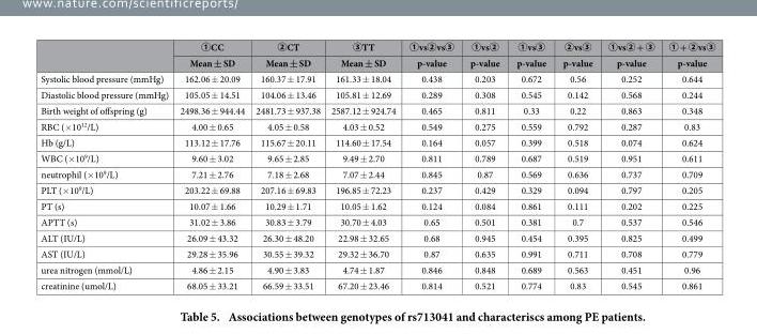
<table><thead><tr><td rowspan="2"></td><td rowspan="2">①CC Mean ± SD</td><td rowspan="2">②CT Mean ± SD</td><td rowspan="2">③TT Mean ± SD</td><td rowspan="2">①vs②vs③ p-value</td><td rowspan="2">①vs② p-value</td><td rowspan="2">①vs③ p-value</td><td rowspan="2">②vs③ p-value</td><td rowspan="2">①vs② + ③ p-value</td><td rowspan="2">① + ②vs③ p-value</td></tr><tr></tr></thead><tbody><tr><td>Systolic blood pressure (mmHg)</td><td>162.06 ± 20.09</td><td>160.37 ± 17.91</td><td>161.33 ± 18.04</td><td>0.438</td><td>0.203</td><td>0.672</td><td>0.56</td><td>0.252</td><td>0.644</td></tr><tr><td>Diastolic blood pressure (mmHg)</td><td>105.05 ± 14.51</td><td>104.06 ± 13.46</td><td>105.81 ± 12.69</td><td>0.289</td><td>0.308</td><td>0.545</td><td>0.142</td><td>0.568</td><td>0.244</td></tr><tr><td>Birth weight of offspring (g)</td><td>2498.36 ± 944.44</td><td>2481.73 ± 937.38</td><td>2587.12 ± 924.74</td><td>0.465</td><td>0.811</td><td>0.33</td><td>0.22</td><td>0.863</td><td>0.348</td></tr><tr><td>RBC (× 10<sup>12</sup>/L)</td><td>4.00 ± 0.65</td><td>4.05 ± 0.58</td><td>4.03 ± 0.52</td><td>0.549</td><td>0.275</td><td>0.559</td><td>0.792</td><td>0.287</td><td>0.83</td></tr><tr><td>Hb (g/L)</td><td>113.12 ± 17.76</td><td>115.67 ± 20.11</td><td>114.60 ± 17.54</td><td>0.164</td><td>0.057</td><td>0.399</td><td>0.518</td><td>0.074</td><td>0.624</td></tr><tr><td>WBC (× 10<sup>9</sup>/L)</td><td>9.60 ± 3.02</td><td>9.65 ± 2.85</td><td>9.49 ± 2.70</td><td>0.811</td><td>0.789</td><td>0.687</td><td>0.519</td><td>0.951</td><td>0.611</td></tr><tr><td>neutrophil (× 10<sup>9</sup>/L)</td><td>7.21 ± 2.76</td><td>7.18 ± 2.68</td><td>7.07 ± 2.44</td><td>0.845</td><td>0.87</td><td>0.569</td><td>0.636</td><td>0.737</td><td>0.709</td></tr><tr><td>PLT (× 10<sup>9</sup>/L)</td><td>203.22 ± 69.88</td><td>207.16 ± 69.83</td><td>196.85 ± 72.23</td><td>0.237</td><td>0.429</td><td>0.329</td><td>0.094</td><td>0.797</td><td>0.205</td></tr><tr><td>PT (s)</td><td>10.07 ± 1.66</td><td>10.29 ± 1.71</td><td>10.05 ± 1.62</td><td>0.124</td><td>0.084</td><td>0.861</td><td>0.111</td><td>0.202</td><td>0.225</td></tr><tr><td>APTT (s)</td><td>31.02 ± 3.86</td><td>30.83 ± 3.79</td><td>30.70 ± 4.03</td><td>0.65</td><td>0.501</td><td>0.381</td><td>0.7</td><td>0.537</td><td>0.546</td></tr><tr><td>ALT (IU/L)</td><td>26.09 ± 43.32</td><td>26.30 ± 48.20</td><td>22.98 ± 32.65</td><td>0.68</td><td>0.945</td><td>0.454</td><td>0.395</td><td>0.825</td><td>0.499</td></tr><tr><td>AST (IU/L)</td><td>29.28 ± 35.96</td><td>30.55 ± 39.32</td><td>29.32 ± 36.70</td><td>0.87</td><td>0.635</td><td>0.991</td><td>0.711</td><td>0.708</td><td>0.779</td></tr><tr><td>urea nitrogen (mmol/L)</td><td>4.86 ± 2.15</td><td>4.90 ± 3.83</td><td>4.74 ± 1.87</td><td>0.846</td><td>0.848</td><td>0.689</td><td>0.563</td><td>0.451</td><td>0.96</td></tr><tr><td>creatinine (umol/L)</td><td>68.05 ± 33.21</td><td>66.59 ± 33.51</td><td>67.20 ± 23.46</td><td>0.814</td><td>0.521</td><td>0.774</td><td>0.83</td><td>0.545</td><td>0.861</td></tr></tbody></table>